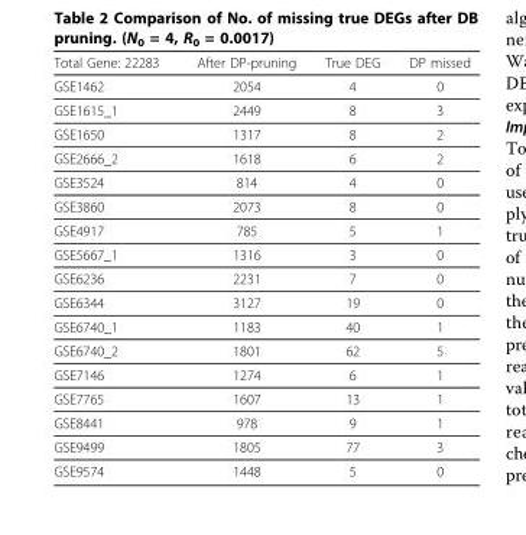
<table><thead><tr><td>Total Gene: 22283</td><td>After DP-pruning</td><td>True DEG</td><td>DP missed</td></tr></thead><tbody><tr><td>GSE1462</td><td>2054</td><td>4</td><td>0</td></tr><tr><td>GSE1615_1</td><td>2449</td><td>8</td><td>3</td></tr><tr><td>GSE1650</td><td>1317</td><td>8</td><td>2</td></tr><tr><td>GSE2666_2</td><td>1618</td><td>6</td><td>2</td></tr><tr><td>GSE3524</td><td>814</td><td>4</td><td>0</td></tr><tr><td>GSE3860</td><td>2073</td><td>8</td><td>0</td></tr><tr><td>GSE4917</td><td>785</td><td>5</td><td>1</td></tr><tr><td>GSE5667_1</td><td>1316</td><td>3</td><td>0</td></tr><tr><td>GSE6236</td><td>2231</td><td>7</td><td>0</td></tr><tr><td>GSE6344</td><td>3127</td><td>19</td><td>0</td></tr><tr><td>GSE6740_1</td><td>1183</td><td>40</td><td>1</td></tr><tr><td>GSE6740_2</td><td>1801</td><td>62</td><td>5</td></tr><tr><td>GSE7146</td><td>1274</td><td>6</td><td>1</td></tr><tr><td>GSE7765</td><td>1607</td><td>13</td><td>1</td></tr><tr><td>GSE8441</td><td>978</td><td>9</td><td>1</td></tr><tr><td>GSE9499</td><td>1805</td><td>77</td><td>3</td></tr><tr><td>GSE9574</td><td>1448</td><td>5</td><td>0</td></tr></tbody></table>